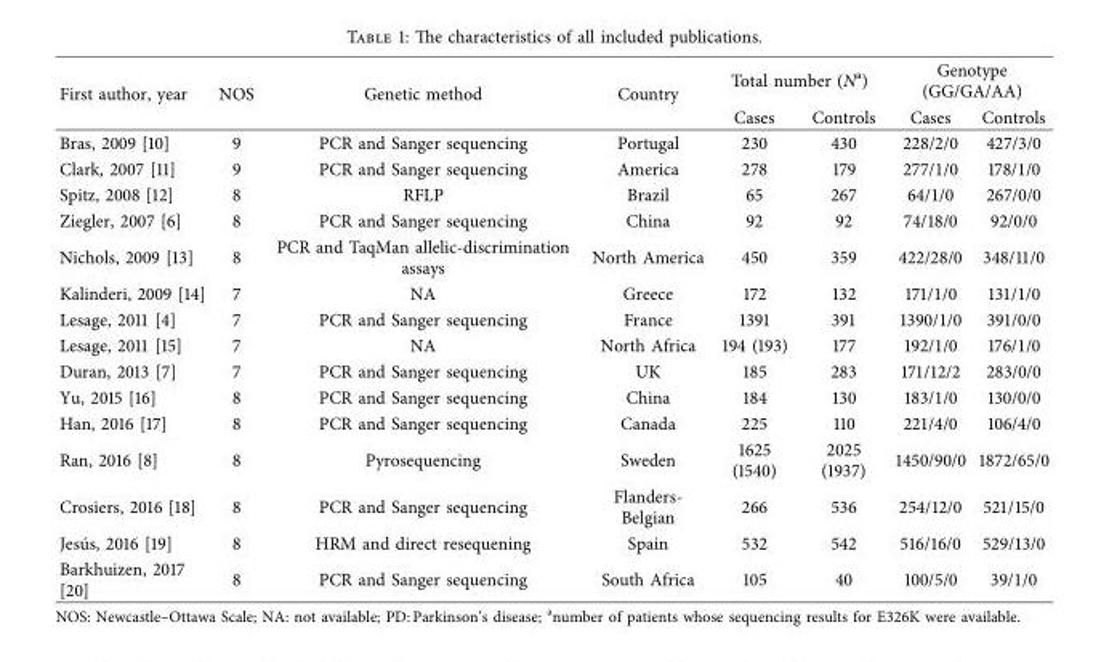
<table><thead><tr><td rowspan="2">First author, year</td><td rowspan="2">NOS</td><td rowspan="2">Genetic method</td><td rowspan="2">Country</td><td colspan="2">Total number (N<sup>a</sup>)</td><td colspan="2">Genotype (GG/GA/AA)</td></tr><tr><td>Cases</td><td>Controls</td><td>Cases</td><td>Controls</td></tr></thead><tbody><tr><td>Bras, 2009 [10]</td><td>9</td><td>PCR and Sanger sequencing</td><td>Portugal</td><td>230</td><td>430</td><td>228/2/0</td><td>427/3/0</td></tr><tr><td>Clark, 2007 [11]</td><td>9</td><td>PCR and Sanger sequencing</td><td>America</td><td>278</td><td>179</td><td>277/1/0</td><td>178/1/0</td></tr><tr><td>Spitz, 2008 [12]</td><td>8</td><td>RFLP</td><td>Brazil</td><td>65</td><td>267</td><td>64/1/0</td><td>267/0/0</td></tr><tr><td>Ziegler, 2007 [6]</td><td>8</td><td>PCR and Sanger sequencing</td><td>China</td><td>92</td><td>92</td><td>74/18/0</td><td>92/0/0</td></tr><tr><td>Nichols, 2009 [13]</td><td>8</td><td>PCR and TaqMan allelic-discrimination assays</td><td>North America</td><td>450</td><td>359</td><td>422/28/0</td><td>348/11/0</td></tr><tr><td>Kalinderi, 2009 [14]</td><td>7</td><td>NA</td><td>Greece</td><td>172</td><td>132</td><td>171/1/0</td><td>131/1/0</td></tr><tr><td>Lesage, 2011 [4]</td><td>7</td><td>PCR and Sanger sequencing</td><td>France</td><td>1391</td><td>391</td><td>1390/1/0</td><td>391/0/0</td></tr><tr><td>Lesage, 2011 [15]</td><td>7</td><td>NA</td><td>North Africa</td><td>194 (193)</td><td>177</td><td>192/1/0</td><td>176/1/0</td></tr><tr><td>Duran, 2013 [7]</td><td>7</td><td>PCR and Sanger sequencing</td><td>UK</td><td>185</td><td>283</td><td>171/12/2</td><td>283/0/0</td></tr><tr><td>Yu, 2015 [16]</td><td>8</td><td>PCR and Sanger sequencing</td><td>China</td><td>184</td><td>130</td><td>183/1/0</td><td>130/0/0</td></tr><tr><td>Han, 2016 [17]</td><td>8</td><td>PCR and Sanger sequencing</td><td>Canada</td><td>225</td><td>110</td><td>221/4/0</td><td>106/4/0</td></tr><tr><td>Ran, 2016 [8]</td><td>8</td><td>Pyrosequencing</td><td>Sweden</td><td>1625 (1540)</td><td>2025 (1937)</td><td>1450/90/0</td><td>1872/65/0</td></tr><tr><td>Crosiers, 2016 [18]</td><td>8</td><td>PCR and Sanger sequencing</td><td>Flanders- Belgian</td><td>266</td><td>536</td><td>254/12/0</td><td>521/15/0</td></tr><tr><td>Jes´us, 2016 [19]</td><td>8</td><td>HRM and direct resequening</td><td>Spain</td><td>532</td><td>542</td><td>516/16/0</td><td>529/13/0</td></tr><tr><td>Barkhuizen, 2017 [20]</td><td>8</td><td>PCR and Sanger sequencing</td><td>South Africa</td><td>105</td><td>40</td><td>100/5/0</td><td>39/1/0</td></tr></tbody></table>